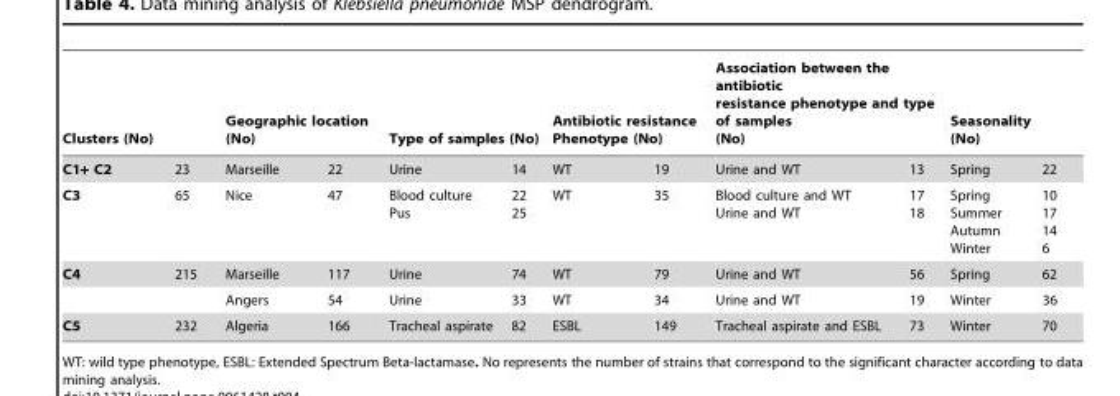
<table><thead><tr><td colspan="2">Clusters (No)</td><td colspan="2">Geographic location (No)</td><td colspan="2">Type of samples (No)</td><td colspan="2">Antibiotic resistance Phenotype (No)</td><td colspan="2">Association between the antibiotic resistance phenotype and type of samples (No)</td><td colspan="2">Seasonality (No)</td></tr><tr><td>C1+ C2</td><td>23</td><td>Marseille</td><td>22</td><td>Urine</td><td>14</td><td>WT</td><td>19</td><td>Urine and WT</td><td>13</td><td>Spring</td><td>22</td></tr></thead><tbody><tr><td>C3</td><td>65</td><td>Nice</td><td>47</td><td>Blood culture Pus</td><td>22 25</td><td>WT</td><td>35</td><td>Blood culture and WT Urine and WT</td><td>17 18</td><td>Spring Summer Autumn Winter</td><td>10 17 14 6</td></tr><tr><td rowspan="2">C4</td><td>215</td><td>Marseille</td><td>117</td><td>Urine</td><td>74</td><td>WT</td><td>79</td><td>Urine and WT</td><td>56</td><td>Spring</td><td>62</td></tr><tr><td></td><td>Angers</td><td>54</td><td>Urine</td><td>33</td><td>WT</td><td>34</td><td>Urine and WT</td><td>19</td><td>Winter</td><td>36</td></tr><tr><td>C5</td><td>232</td><td>Algeria</td><td>166</td><td>Tracheal aspirate</td><td>82</td><td>ESBL</td><td>149</td><td>Tracheal aspirate and ESBL</td><td>73</td><td>Winter</td><td>70</td></tr></tbody></table>